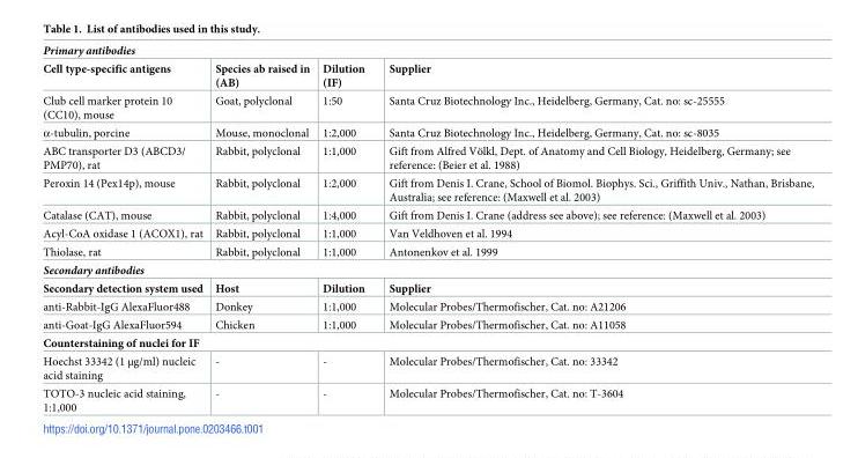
<table><tbody><tr><td colspan="4">Primary antibodies</td></tr><tr><td>Cell type-specific antigens</td><td>Species ab raised in (AB)</td><td>Dilution (IF)</td><td>Supplier</td></tr><tr><td>Club cell marker protein 10 (CC10), mouse</td><td>Goat, polyclonal</td><td>1:50</td><td>Santa Cruz Biotechnology Inc., Heidelberg, Germany, Cat. no: sc-25555</td></tr><tr><td>α-tubulin, porcine</td><td>Mouse, monoclonal</td><td>1:2,000</td><td>Santa Cruz Biotechnology Inc., Heidelberg, Germany, Cat. no: sc-8035</td></tr><tr><td>ABC transporter D3 (ABCD3/ PMP70), rat</td><td>Rabbit, polyclonal</td><td>1:1,000</td><td>Gift from Alfred Vo¨lkl, Dept. of Anatomy and Cell Biology, Heidelberg, Germany; see reference: (Beier et al. 1988)</td></tr><tr><td>Peroxin 14 (Pex14p), mouse</td><td>Rabbit, polyclonal</td><td>1:2,000</td><td>Gift from Denis I. Crane, School of Biomol. Biophys. Sci., Griffith Univ., Nathan, Brisbane, Australia; see reference: (Maxwell et al. 2003)</td></tr><tr><td>Catalase (CAT), mouse</td><td>Rabbit, polyclonal</td><td>1:4,000</td><td>Gift from Denis I. Crane (address see above); see reference: (Maxwell et al. 2003)</td></tr><tr><td>Acyl-CoA oxidase 1 (ACOX1), rat</td><td>Rabbit, polyclonal</td><td>1:1,000</td><td>Van Veldhoven et al. 1994</td></tr><tr><td>Thiolase, rat</td><td>Rabbit, polyclonal</td><td>1:1,000</td><td>Antonenkov et al. 1999</td></tr><tr><td colspan="4">Secondary antibodies</td></tr><tr><td>Secondary detection system used</td><td>Host</td><td>Dilution</td><td>Supplier</td></tr><tr><td>anti-Rabbit-IgG AlexaFluor488</td><td>Donkey</td><td>1:1,000</td><td>Molecular Probes/Thermofischer, Cat. no: A21206</td></tr><tr><td>anti-Goat-IgG AlexaFluor594</td><td>Chicken</td><td>1:1,000</td><td>Molecular Probes/Thermofischer, Cat. no: A11058</td></tr><tr><td colspan="4">Counterstaining of nuclei for IF</td></tr><tr><td>Hoechst 33342 (1 μg/ml) nucleic acid staining</td><td>-</td><td>-</td><td>Molecular Probes/Thermofischer, Cat. no: 33342</td></tr><tr><td>TOTO-3 nucleic acid staining, 1:1,000</td><td>-</td><td>-</td><td>Molecular Probes/Thermofischer, Cat. no: T-3604</td></tr></tbody></table>